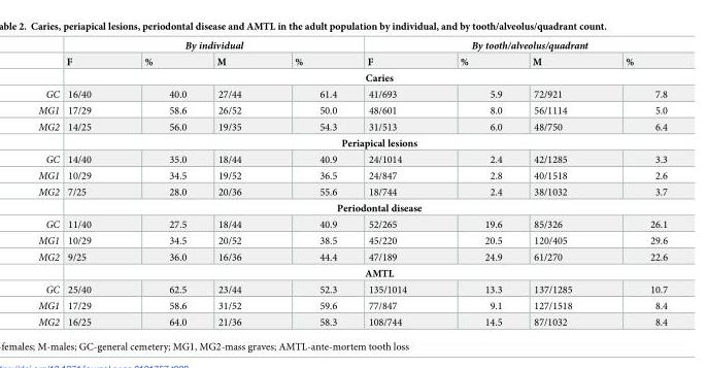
<table><thead><tr><td rowspan="2"></td><td colspan="4">By individual</td><td colspan="4">By tooth/alveolus/quadrant</td></tr><tr><td>F</td><td>%</td><td>M</td><td>%</td><td>F</td><td>%</td><td>M</td><td>%</td></tr></thead><tbody><tr><td></td><td colspan="8">Caries</td></tr><tr><td>GC</td><td>16/40</td><td>40.0</td><td>27/44</td><td>61.4</td><td>41/693</td><td>5.9</td><td>72/921</td><td>7.8</td></tr><tr><td>MG1</td><td>17/29</td><td>58.6</td><td>26/52</td><td>50.0</td><td>48/601</td><td>8.0</td><td>56/1114</td><td>5.0</td></tr><tr><td rowspan="2">MG2</td><td>14/25</td><td>56.0</td><td>19/35</td><td>54.3</td><td>31/513</td><td>6.0</td><td>48/750</td><td>6.4</td></tr><tr><td colspan="8">Periapical lesions</td></tr><tr><td>GC</td><td>14/40</td><td>35.0</td><td>18/44</td><td>40.9</td><td>24/1014</td><td>2.4</td><td>42/1285</td><td>3.3</td></tr><tr><td>MG1</td><td>10/29</td><td>34.5</td><td>19/52</td><td>36.5</td><td>24/847</td><td>2.8</td><td>40/1518</td><td>2.6</td></tr><tr><td rowspan="2">MG2</td><td>7/25</td><td>28.0</td><td>20/36</td><td>55.6</td><td>18/744</td><td>2.4</td><td>38/1032</td><td>3.7</td></tr><tr><td colspan="8">Periodontal disease</td></tr><tr><td>GC</td><td>11/40</td><td>27.5</td><td>18/44</td><td>40.9</td><td>52/265</td><td>19.6</td><td>85/326</td><td>26.1</td></tr><tr><td>MG1</td><td>10/29</td><td>34.5</td><td>20/52</td><td>38.5</td><td>45/220</td><td>20.5</td><td>120/405</td><td>29.6</td></tr><tr><td rowspan="2">MG2</td><td>9/25</td><td>36.0</td><td>16/36</td><td>44.4</td><td>47/189</td><td>24.9</td><td>61/270</td><td>22.6</td></tr><tr><td colspan="8">AMTL</td></tr><tr><td>GC</td><td>25/40</td><td>62.5</td><td>23/44</td><td>52.3</td><td>135/1014</td><td>13.3</td><td>137/1285</td><td>10.7</td></tr><tr><td>MG1</td><td>17/29</td><td>58.6</td><td>31/52</td><td>59.6</td><td>77/847</td><td>9.1</td><td>127/1518</td><td>8.4</td></tr><tr><td>MG2</td><td>16/25</td><td>64.0</td><td>21/36</td><td>58.3</td><td>108/744</td><td>14.5</td><td>87/1032</td><td>8.4</td></tr></tbody></table>